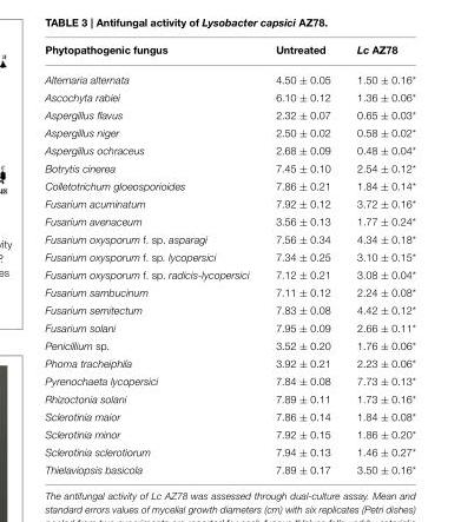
<table><thead><tr><td>Phytopathogenic fungus</td><td>Untreated</td><td>Lc AZ78</td></tr></thead><tbody><tr><td>Alternaria alternata</td><td>4.50 ± 0.05</td><td>1.50 ± 0.16*</td></tr><tr><td>Ascochyta rabiei</td><td>6.10 ± 0.12</td><td>1.36 ± 0.06*</td></tr><tr><td>Aspergillus flavus</td><td>2.32 ± 0.07</td><td>0.65 ± 0.03*</td></tr><tr><td>Aspergillus niger</td><td>2.50 ± 0.02</td><td>0.58 ± 0.02*</td></tr><tr><td>Aspergillus ochraceus</td><td>2.68 ± 0.09</td><td>0.48 ± 0.04*</td></tr><tr><td>Botrytis cinerea</td><td>7.45 ± 0.10</td><td>2.54 ± 0.12*</td></tr><tr><td>Colletotrichum gloeosporioides</td><td>7.86 ± 0.21</td><td>1.84 ± 0.14*</td></tr><tr><td>Fusarium acuminatum</td><td>7.92 ± 0.12</td><td>3.72 ± 0.16*</td></tr><tr><td>Fusarium avenaceum</td><td>3.56 ± 0.13</td><td>1.77 ± 0.24*</td></tr><tr><td>Fusarium oxysporum f. sp. asparagi</td><td>7.56 ± 0.34</td><td>4.34 ± 0.18*</td></tr><tr><td>Fusarium oxysporum f. sp. lycopersici</td><td>7.34 ± 0.25</td><td>3.10 ± 0.15*</td></tr><tr><td>Fusarium oxysporum f. sp. radicis-lycopersici</td><td>7.12 ± 0.21</td><td>3.08 ± 0.04*</td></tr><tr><td>Fusarium sambucinum</td><td>7.11 ± 0.12</td><td>2.24 ± 0.08*</td></tr><tr><td>Fusarium semitectum</td><td>7.83 ± 0.08</td><td>4.42 ± 0.12*</td></tr><tr><td>Fusarium solani</td><td>7.95 ± 0.09</td><td>2.66 ± 0.11*</td></tr><tr><td>Penicillium sp.</td><td>3.52 ± 0.20</td><td>1.76 ± 0.06*</td></tr><tr><td>Phoma tracheiphila</td><td>3.92 ± 0.21</td><td>2.23 ± 0.06*</td></tr><tr><td>Pyrenochaeta lycopersici</td><td>7.84 ± 0.08</td><td>7.73 ± 0.13*</td></tr><tr><td>Rhizoctonia solani</td><td>7.89 ± 0.11</td><td>1.73 ± 0.16*</td></tr><tr><td>Sclerotinia maior</td><td>7.86 ± 0.14</td><td>1.84 ± 0.08*</td></tr><tr><td>Sclerotinia minor</td><td>7.92 ± 0.15</td><td>1.86 ± 0.20*</td></tr><tr><td>Sclerotinia sclerotiorum</td><td>7.94 ± 0.13</td><td>1.46 ± 0.27*</td></tr><tr><td>Thielaviopsis basicola</td><td>7.89 ± 0.17</td><td>3.50 ± 0.16*</td></tr></tbody></table>